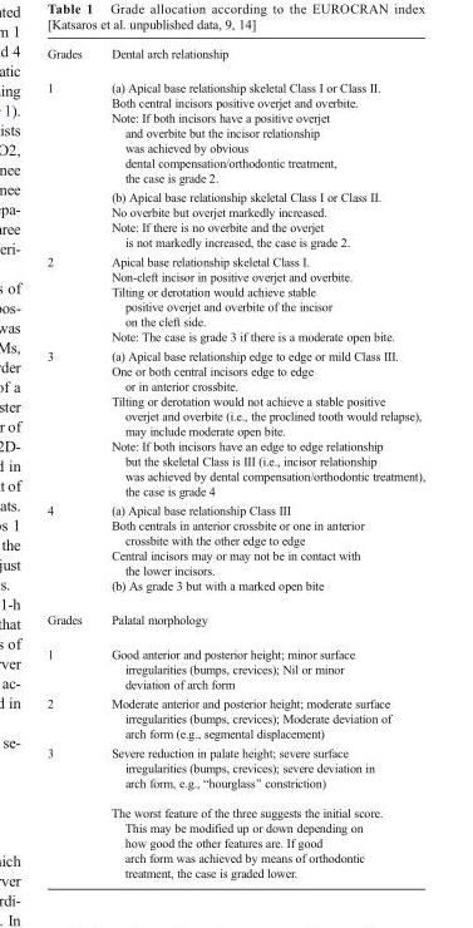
<table><tbody><tr><td>Grades</td><td>Dental arch relationship</td></tr><tr><td rowspan="2">1</td><td>(a) Apical base relationship skeletal Class I or Class II. Both central incisors positive overjet and overbite. Note: If both incisors have a positive overjet and overbite but the incisor relationship was achieved by obvious dental compensation/orthodontic treatment, the case is grade 2.</td></tr><tr><td>(b) Apical base relationship skeletal Class I or Class II. No overbite but overjet markedly increased. Note: If there is no overbite and the overjet is not markedly increased, the case is grade 2.</td></tr><tr><td>2</td><td>Apical base relationship skeletal Class I. Non-cleft incisor in positive overjet and overbite. Tilting or derotation would achieve stable positive overjet and overbite of the incisor on the cleft side. Note: The case is grade 3 if there is a moderate open bite.</td></tr><tr><td>3</td><td>(a) Apical base relationship edge to edge or mild Class III. One or both central incisors edge to edge or in anterior crossbite. Tilting or derotation would not achieve a stable positive overjet and overbite (i.e., the proclined tooth would relapse), may include moderate open bite. Note: If both incisors have an edge to edge relationship but the skeletal Class is III (i.e., incisor relationship was achieved by dental compensation/orthodontic treatment), the case is grade 4</td></tr><tr><td>4</td><td>(a) Apical base relationship Class III Both centrals in anterior crossbite or one in anterior crossbite with the other edge to edge Central incisors may or may not be in contact with the lower incisors. (b) As grade 3 but with a marked open bite</td></tr><tr><td>Grades</td><td>Palatal morphology</td></tr><tr><td>1</td><td>Good anterior and posterior height; minor surface irregularities (bumps, crevices); Nil or minor deviation of arch form</td></tr><tr><td>2</td><td>Moderate anterior and posterior height; moderate surface irregularities (bumps, crevices); Moderate deviation of arch form (e.g., segmental displacement)</td></tr><tr><td rowspan="2">3</td><td>Severe reduction in palate height; severe surface irregularities (bumps, crevices); severe deviation in arch form, e.g., “hourglass” constriction)</td></tr><tr><td>The worst feature of the three suggests the initial score. This may be modified up or down depending on how good the other features are. If good arch form was achieved by means of orthodontic treatment, the case is graded lower.</td></tr></tbody></table>